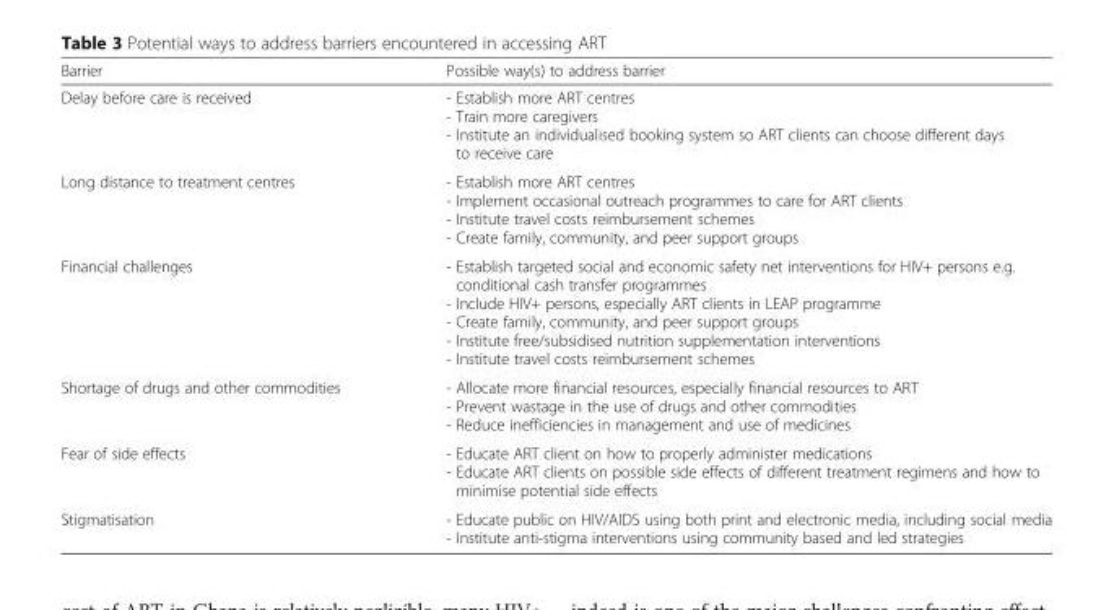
<table><thead><tr><td>Barrier</td><td>Possible way(s) to address barrier</td></tr></thead><tbody><tr><td>Delay before care is received</td><td>- Establish more ART centres - Train more caregivers - Institute an individualised booking system so ART clients can choose different days to receive care</td></tr><tr><td>Long distance to treatment centres</td><td>- Establish more ART centres - Implement occasional outreach programmes to care for ART clients - Institute travel costs reimbursement schemes - Create family, community, and peer support groups</td></tr><tr><td>Financial challenges</td><td>- Establish targeted social and economic safety net interventions for HIV+ persons e.g. conditional cash transfer programmes - Include HIV+ persons, especially ART clients in LEAP programme - Create family, community, and peer support groups - Institute free/subsidised nutrition supplementation interventions - Institute travel costs reimbursement schemes</td></tr><tr><td>Shortage of drugs and other commodities</td><td>- Allocate more financial resources, especially financial resources to ART - Prevent wastage in the use of drugs and other commodities - Reduce inefficiencies in management and use of medicines</td></tr><tr><td>Fear of side effects</td><td>- Educate ART client on how to properly administer medications - Educate ART clients on possible side effects of different treatment regimens and how to minimise potential side effects</td></tr><tr><td>Stigmatisation</td><td>- Educate public on HIV/AIDS using both print and electronic media, including social media - Institute anti-stigma interventions using community based and led strategies</td></tr></tbody></table>